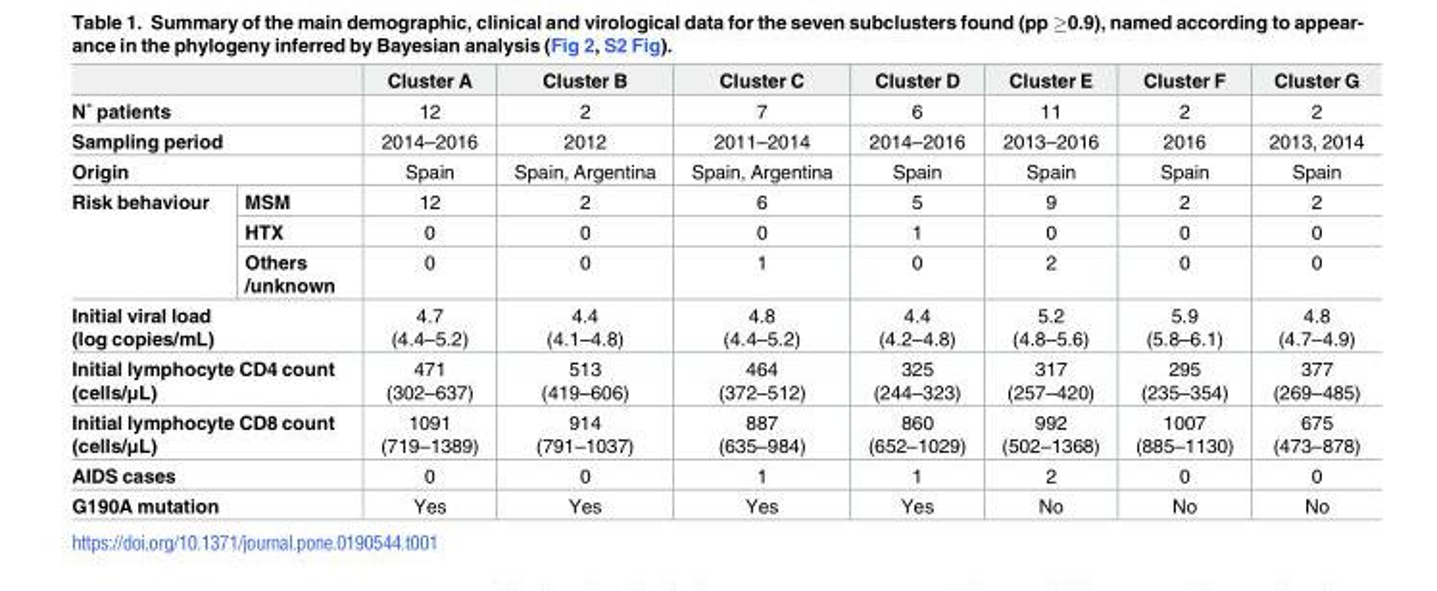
<table><thead><tr><td></td><td></td><td>Cluster A</td><td>Cluster B</td><td>Cluster C</td><td>Cluster D</td><td>Cluster E</td><td>Cluster F</td><td>Cluster G</td></tr></thead><tbody><tr><td colspan="2">N˚ patients</td><td>12</td><td>2</td><td>7</td><td>6</td><td>11</td><td>2</td><td>2</td></tr><tr><td colspan="2">Sampling period</td><td>2014–2016</td><td>2012</td><td>2011–2014</td><td>2014–2016</td><td>2013–2016</td><td>2016</td><td>2013, 2014</td></tr><tr><td colspan="2">Origin</td><td>Spain</td><td>Spain, Argentina</td><td>Spain, Argentina</td><td>Spain</td><td>Spain</td><td>Spain</td><td>Spain</td></tr><tr><td rowspan="3">Risk behaviour</td><td>MSM</td><td>12</td><td>2</td><td>6</td><td>5</td><td>9</td><td>2</td><td>2</td></tr><tr><td>HTX</td><td>0</td><td>0</td><td>0</td><td>1</td><td>0</td><td>0</td><td>0</td></tr><tr><td>Others /unknown</td><td>0</td><td>0</td><td>1</td><td>0</td><td>2</td><td>0</td><td>0</td></tr><tr><td colspan="2">Initial viral load (log copies/mL)</td><td>4.7 (4.4–5.2)</td><td>4.4 (4.1–4.8)</td><td>4.8 (4.4–5.2)</td><td>4.4 (4.2–4.8)</td><td>5.2 (4.8–5.6)</td><td>5.9 (5.8–6.1)</td><td>4.8 (4.7–4.9)</td></tr><tr><td colspan="2">Initial lymphocyte CD4 count (cells/μL)</td><td>471 (302–637)</td><td>513 (419–606)</td><td>464 (372–512)</td><td>325 (244–323)</td><td>317 (257–420)</td><td>295 (235–354)</td><td>377 (269–485)</td></tr><tr><td colspan="2">Initial lymphocyte CD8 count (cells/μL)</td><td>1091 (719–1389)</td><td>914 (791–1037)</td><td>887 (635–984)</td><td>860 (652–1029)</td><td>992 (502–1368)</td><td>1007 (885–1130)</td><td>675 (473–878)</td></tr><tr><td colspan="2">AIDS cases</td><td>0</td><td>0</td><td>1</td><td>1</td><td>2</td><td>0</td><td>0</td></tr><tr><td colspan="2">G190A mutation</td><td>Yes</td><td>Yes</td><td>Yes</td><td>Yes</td><td>No</td><td>No</td><td>No</td></tr></tbody></table>